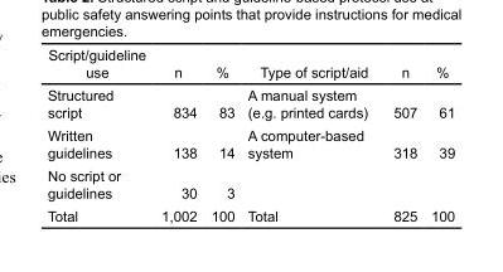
<table><thead><tr><td>Script/guideline use</td><td>n</td><td>%</td><td>Type of script/aid</td><td>n</td><td>%</td></tr></thead><tbody><tr><td>Structured script</td><td>834</td><td>83</td><td>A manual system (e.g. printed cards)</td><td>507</td><td>61</td></tr><tr><td>Written guidelines</td><td>138</td><td>14</td><td>A computer-based system</td><td>318</td><td>39</td></tr><tr><td>No script or guidelines</td><td>30</td><td>3</td><td></td><td></td><td></td></tr><tr><td>Total</td><td>1,002</td><td>100</td><td>Total</td><td>825</td><td>100</td></tr></tbody></table>